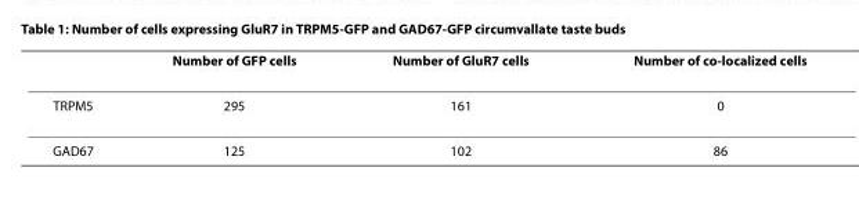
<table><thead><tr><td></td><td>Number of GFP cells</td><td>Number of GluR7 cells</td><td>Number of co-localized cells</td></tr></thead><tbody><tr><td>TRPM5</td><td>295</td><td>161</td><td>0</td></tr><tr><td>GAD67</td><td>125</td><td>102</td><td>86</td></tr></tbody></table>